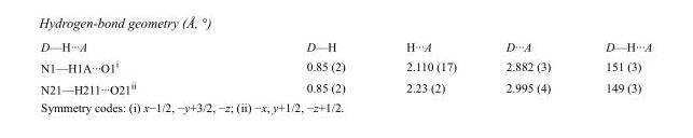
<table><tbody><tr><td>D—H···A</td><td>D—H</td><td>H···A</td><td>D···A</td><td>D—H···A</td></tr><tr><td>N1—H1A···O1<sup>i</sup></td><td>0.85 (2)</td><td>2.110 (17)</td><td>2.882 (3)</td><td>151 (3)</td></tr><tr><td>N21—H211···O21<sup>ii</sup></td><td>0.85 (2)</td><td>2.23 (2)</td><td>2.995 (4)</td><td>149 (3)</td></tr></tbody></table>